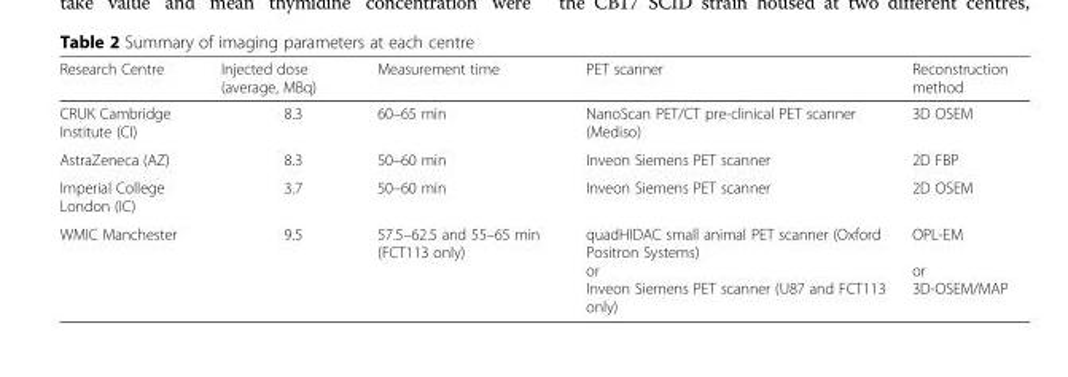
<table><thead><tr><td>Research Centre</td><td>Injected dose (average, MBq)</td><td>Measurement time</td><td>PET scanner</td><td>Reconstruction method</td></tr></thead><tbody><tr><td>CRUK Cambridge Institute (CI)</td><td>8.3</td><td>60–65 min</td><td>NanoScan PET/CT pre-clinical PET scanner (Mediso)</td><td>3D OSEM</td></tr><tr><td>AstraZeneca (AZ)</td><td>8.3</td><td>50–60 min</td><td>Inveon Siemens PET scanner</td><td>2D FBP</td></tr><tr><td>Imperial College London (IC)</td><td>3.7</td><td>50–60 min</td><td>Inveon Siemens PET scanner</td><td>2D OSEM</td></tr><tr><td>WMIC Manchester</td><td>9.5</td><td>57.5–62.5 and 55–65 min (FCT113 only)</td><td>quadHIDAC small animal PET scanner (Oxford Positron Systems) or Inveon Siemens PET scanner (U87 and FCT113 only)</td><td>OPL-EM or 3D-OSEM/MAP</td></tr></tbody></table>